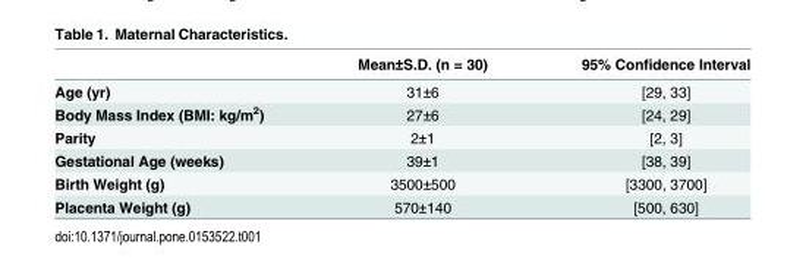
<table><thead><tr><td></td><td>Mean±S.D. (n = 30)</td><td>95% Confidence Interval</td></tr></thead><tbody><tr><td>Age (yr)</td><td>31±6</td><td>[29, 33]</td></tr><tr><td>Body Mass Index (BMI: kg/m<sup>2</sup>)</td><td>27±6</td><td>[24, 29]</td></tr><tr><td>Parity</td><td>2±1</td><td>[2, 3]</td></tr><tr><td>Gestational Age (weeks)</td><td>39±1</td><td>[38, 39]</td></tr><tr><td>Birth Weight (g)</td><td>3500±500</td><td>[3300, 3700]</td></tr><tr><td>Placenta Weight (g)</td><td>570±140</td><td>[500, 630]</td></tr></tbody></table>